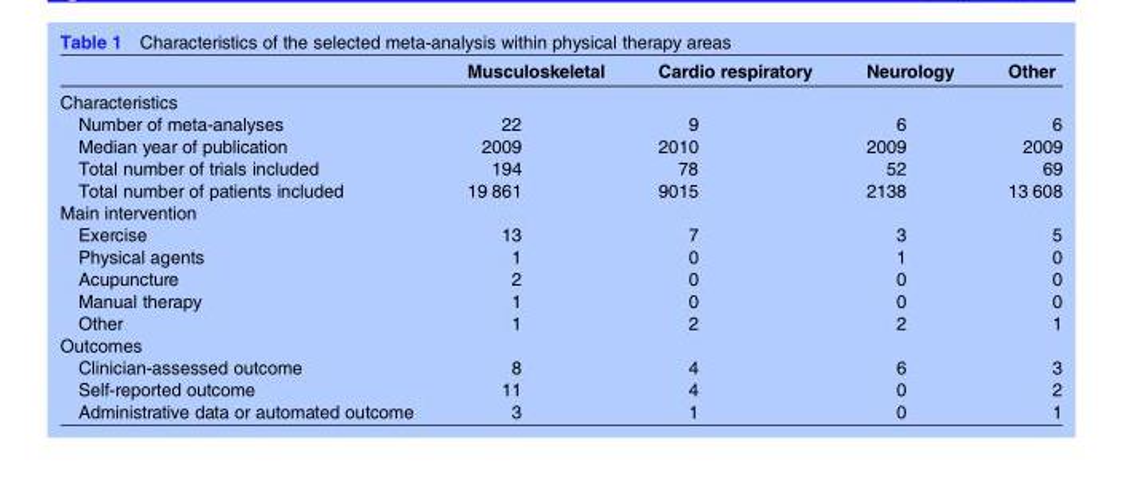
<table><thead><tr><td></td><td>Musculoskeletal</td><td>Cardio respiratory</td><td>Neurology</td><td>Other</td></tr></thead><tbody><tr><td colspan="5">Characteristics</td></tr><tr><td>Number of meta-analyses</td><td>22</td><td>9</td><td>6</td><td>6</td></tr><tr><td>Median year of publication</td><td>2009</td><td>2010</td><td>2009</td><td>2009</td></tr><tr><td>Total number of trials included</td><td>194</td><td>78</td><td>52</td><td>69</td></tr><tr><td>Total number of patients included</td><td>19 861</td><td>9015</td><td>2138</td><td>13 608</td></tr><tr><td colspan="5">Main intervention</td></tr><tr><td>Exercise</td><td>13</td><td>7</td><td>3</td><td>5</td></tr><tr><td>Physical agents</td><td>1</td><td>0</td><td>1</td><td>0</td></tr><tr><td>Acupuncture</td><td>2</td><td>0</td><td>0</td><td>0</td></tr><tr><td>Manual therapy</td><td>1</td><td>0</td><td>0</td><td>0</td></tr><tr><td>Other</td><td>1</td><td>2</td><td>2</td><td>1</td></tr><tr><td colspan="5">Outcomes</td></tr><tr><td>Clinician-assessed outcome</td><td>8</td><td>4</td><td>6</td><td>3</td></tr><tr><td>Self-reported outcome</td><td>11</td><td>4</td><td>0</td><td>2</td></tr><tr><td>Administrative data or automated outcome</td><td>3</td><td>1</td><td>0</td><td>1</td></tr></tbody></table>